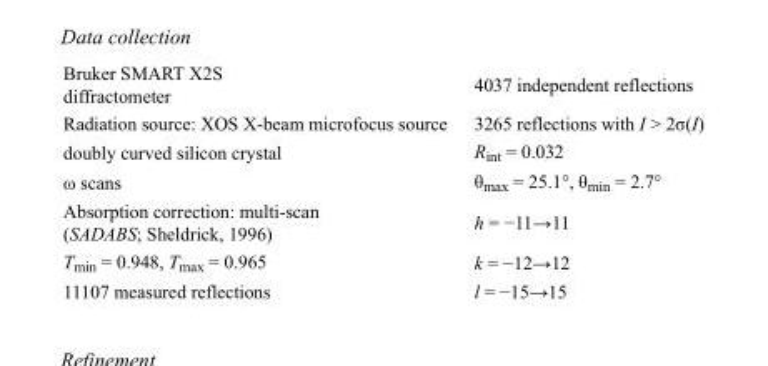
<table><tbody><tr><td>Bruker SMART X2S diffractometer</td><td>4037 independent reflections</td></tr><tr><td>Radiation source: XOS X-beam microfocus source</td><td>3265 reflections with I &gt; 2σ(I)</td></tr><tr><td>doubly curved silicon crystal</td><td>R<sub>int</sub> = 0.032</td></tr><tr><td>ω scans</td><td>θ<sub>max</sub> = 25.1°, θ<sub>min</sub> = 2.7°</td></tr><tr><td>Absorption correction: multi-scan (SADABS; Sheldrick, 1996)</td><td>h = −11→11</td></tr><tr><td>T<sub>min</sub> = 0.948, T<sub>max</sub> = 0.965</td><td>k = −12→12</td></tr><tr><td>11107 measured reflections</td><td>l = −15→15</td></tr></tbody></table>